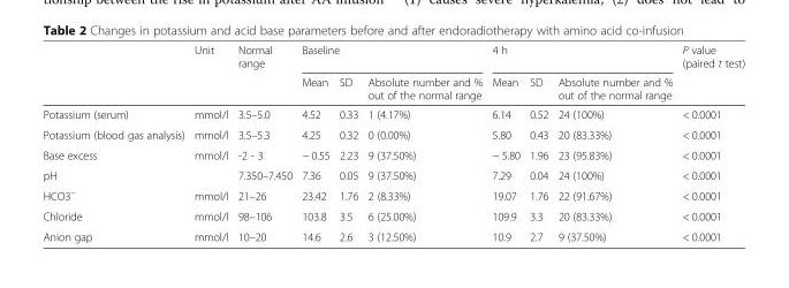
<table><thead><tr><td rowspan="2"></td><td rowspan="2">Unit</td><td rowspan="2">Normal range</td><td colspan="3">Baseline</td><td colspan="3">4 h</td><td rowspan="2">P value (paired t test)</td></tr><tr><td>Mean</td><td>SD</td><td>Absolute number and % out of the normal range</td><td>Mean</td><td>SD</td><td>Absolute number and % out of the normal range</td></tr></thead><tbody><tr><td>Potassium (serum)</td><td>mmol/l</td><td>3.5–5.0</td><td>4.52</td><td>0.33</td><td>1 (4.17%)</td><td>6.14</td><td>0.52</td><td>24 (100%)</td><td>&lt; 0.0001</td></tr><tr><td>Potassium (blood gas analysis)</td><td>mmol/l</td><td>3.5–5.3</td><td>4.25</td><td>0.32</td><td>0 (0.00%)</td><td>5.80</td><td>0.43</td><td>20 (83.33%)</td><td>&lt; 0.0001</td></tr><tr><td>Base excess</td><td>mmol/l</td><td>-2 - 3</td><td>− 0.55</td><td>2.23</td><td>9 (37.50%)</td><td>− 5.80</td><td>1.96</td><td>23 (95.83%)</td><td>&lt; 0.0001</td></tr><tr><td>pH</td><td></td><td>7.350–7.450</td><td>7.36</td><td>0.05</td><td>9 (37.50%)</td><td>7.29</td><td>0.04</td><td>24 (100%)</td><td>&lt; 0.0001</td></tr><tr><td>HCO3<sup>−</sup></td><td>mmol/l</td><td>21–26</td><td>23.42</td><td>1.76</td><td>2 (8.33%)</td><td>19.07</td><td>1.76</td><td>22 (91.67%)</td><td>&lt; 0.0001</td></tr><tr><td>Chloride</td><td>mmol/l</td><td>98–106</td><td>103.8</td><td>3.5</td><td>6 (25.00%)</td><td>109.9</td><td>3.3</td><td>20 (83.33%)</td><td>&lt; 0.0001</td></tr><tr><td>Anion gap</td><td>mmol/l</td><td>10–20</td><td>14.6</td><td>2.6</td><td>3 (12.50%)</td><td>10.9</td><td>2.7</td><td>9 (37.50%)</td><td>&lt; 0.0001</td></tr></tbody></table>